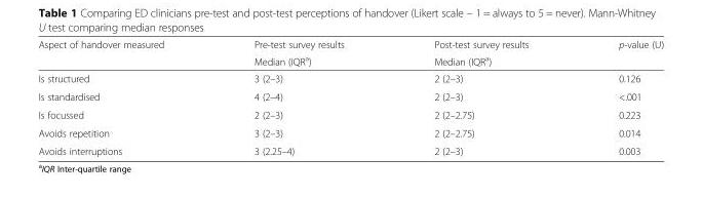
<table><thead><tr><td rowspan="2">Aspect of handover measured</td><td rowspan="2">Pre-test survey results Median (IQR<sup>a</sup>)</td><td rowspan="2">Post-test survey results Median (IQR<sup>a</sup>)</td><td rowspan="2">p-value (U)</td></tr><tr></tr></thead><tbody><tr><td>Is structured</td><td>3 (2–3)</td><td>2 (2–3)</td><td>0.126</td></tr><tr><td>Is standardised</td><td>4 (2–4)</td><td>2 (2–3)</td><td>&lt;.001</td></tr><tr><td>Is focussed</td><td>2 (2–3)</td><td>2 (2–2.75)</td><td>0.223</td></tr><tr><td>Avoids repetition</td><td>3 (2–3)</td><td>2 (2–2.75)</td><td>0.014</td></tr><tr><td>Avoids interruptions</td><td>3 (2.25–4)</td><td>2 (2–3)</td><td>0.003</td></tr></tbody></table>